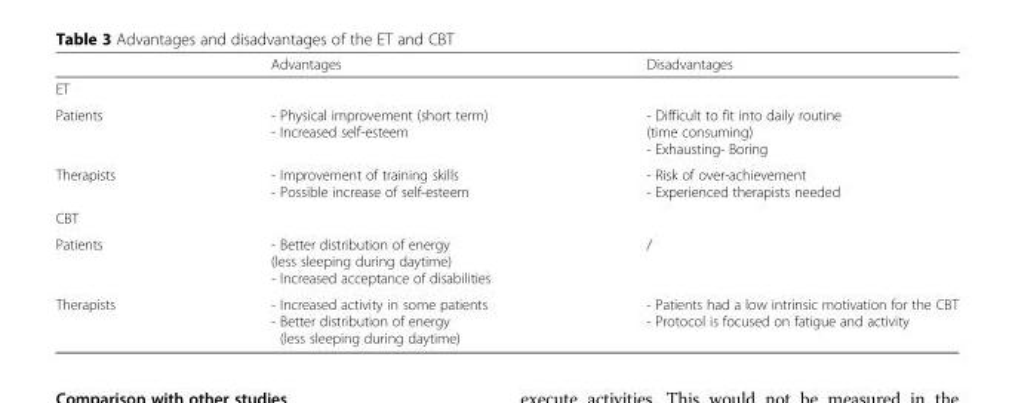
<table><thead><tr><td></td><td>Advantages</td><td>Disadvantages</td></tr></thead><tbody><tr><td colspan="3">ET</td></tr><tr><td>Patients</td><td>- Physical improvement (short term) - Increased self-esteem</td><td>- Difficult to fit into daily routine (time consuming) - Exhausting- Boring</td></tr><tr><td>Therapists</td><td>- Improvement of training skills - Possible increase of self-esteem</td><td>- Risk of over-achievement - Experienced therapists needed</td></tr><tr><td colspan="3">CBT</td></tr><tr><td>Patients</td><td>- Better distribution of energy (less sleeping during daytime) - Increased acceptance of disabilities</td><td>/</td></tr><tr><td>Therapists</td><td>- Increased activity in some patients - Better distribution of energy (less sleeping during daytime)</td><td>- Patients had a low intrinsic motivation for the CBT - Protocol is focused on fatigue and activity</td></tr></tbody></table>